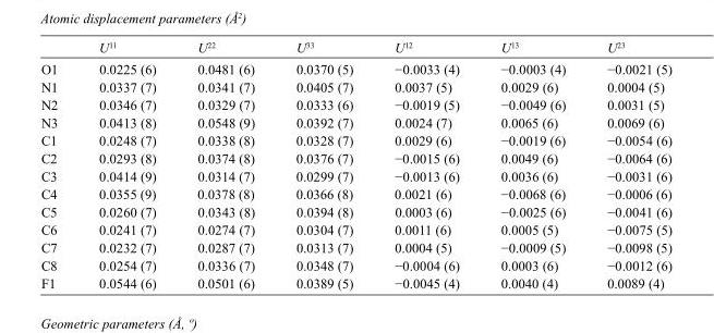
<table><thead><tr><td></td><td>U<sup>11</sup></td><td>U<sup>22</sup></td><td>U<sup>33</sup></td><td>U<sup>12</sup></td><td>U<sup>13</sup></td><td>U<sup>23</sup></td></tr></thead><tbody><tr><td>O1</td><td>0.0225 (6)</td><td>0.0481 (6)</td><td>0.0370 (5)</td><td>−0.0033 (4)</td><td>−0.0003 (4)</td><td>−0.0021 (5)</td></tr><tr><td>N1</td><td>0.0337 (7)</td><td>0.0341 (7)</td><td>0.0405 (7)</td><td>0.0037 (5)</td><td>0.0029 (6)</td><td>0.0004 (5)</td></tr><tr><td>N2</td><td>0.0346 (7)</td><td>0.0329 (7)</td><td>0.0333 (6)</td><td>−0.0019 (5)</td><td>−0.0049 (6)</td><td>0.0031 (5)</td></tr><tr><td>N3</td><td>0.0413 (8)</td><td>0.0548 (9)</td><td>0.0392 (7)</td><td>0.0024 (7)</td><td>0.0065 (6)</td><td>0.0069 (6)</td></tr><tr><td>C1</td><td>0.0248 (7)</td><td>0.0338 (8)</td><td>0.0328 (7)</td><td>0.0029 (6)</td><td>−0.0019 (6)</td><td>−0.0054 (6)</td></tr><tr><td>C2</td><td>0.0293 (8)</td><td>0.0374 (8)</td><td>0.0376 (7)</td><td>−0.0015 (6)</td><td>0.0049 (6)</td><td>−0.0064 (6)</td></tr><tr><td>C3</td><td>0.0414 (9)</td><td>0.0314 (7)</td><td>0.0299 (7)</td><td>−0.0013 (6)</td><td>0.0036 (6)</td><td>−0.0031 (6)</td></tr><tr><td>C4</td><td>0.0355 (9)</td><td>0.0378 (8)</td><td>0.0366 (8)</td><td>0.0021 (6)</td><td>−0.0068 (6)</td><td>−0.0006 (6)</td></tr><tr><td>C5</td><td>0.0260 (7)</td><td>0.0343 (8)</td><td>0.0394 (8)</td><td>0.0003 (6)</td><td>−0.0025 (6)</td><td>−0.0041 (6)</td></tr><tr><td>C6</td><td>0.0241 (7)</td><td>0.0274 (7)</td><td>0.0304 (7)</td><td>0.0011 (6)</td><td>0.0005 (5)</td><td>−0.0075 (5)</td></tr><tr><td>C7</td><td>0.0232 (7)</td><td>0.0287 (7)</td><td>0.0313 (7)</td><td>0.0004 (5)</td><td>−0.0009 (5)</td><td>−0.0098 (5)</td></tr><tr><td>C8</td><td>0.0254 (7)</td><td>0.0336 (7)</td><td>0.0348 (7)</td><td>−0.0004 (6)</td><td>0.0003 (6)</td><td>−0.0012 (6)</td></tr><tr><td>F1</td><td>0.0544 (6)</td><td>0.0501 (6)</td><td>0.0389 (5)</td><td>−0.0045 (4)</td><td>0.0040 (4)</td><td>0.0089 (4)</td></tr></tbody></table>